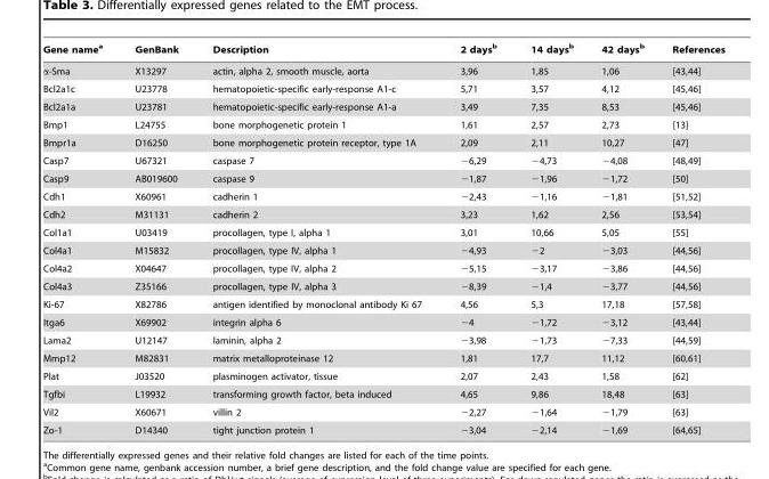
<table><thead><tr><td>Gene name<sup>a</sup></td><td>GenBank</td><td>Description</td><td>2 days<sup>b</sup></td><td>14 days<sup>b</sup></td><td>42 days<sup>b</sup></td><td>References</td></tr></thead><tbody><tr><td>α-Sma</td><td>X13297</td><td>actin, alpha 2, smooth muscle, aorta</td><td>3,96</td><td>1,85</td><td>1,06</td><td>[43,44]</td></tr><tr><td>Bcl2a1c</td><td>U23778</td><td>hematopoietic-specific early-response A1-c</td><td>5,71</td><td>3,57</td><td>4,12</td><td>[45,46]</td></tr><tr><td>Bcl2a1a</td><td>U23781</td><td>hematopoietic-specific early-response A1-a</td><td>3,49</td><td>7,35</td><td>8,53</td><td>[45,46]</td></tr><tr><td>Bmp1</td><td>L24755</td><td>bone morphogenetic protein 1</td><td>1,61</td><td>2,57</td><td>2,73</td><td>[13]</td></tr><tr><td>Bmpr1a</td><td>D16250</td><td>bone morphogenetic protein receptor, type 1A</td><td>2,09</td><td>2,11</td><td>10,27</td><td>[47]</td></tr><tr><td>Casp7</td><td>U67321</td><td>caspase 7</td><td>−6,29</td><td>−4,73</td><td>−4,08</td><td>[48,49]</td></tr><tr><td>Casp9</td><td>AB019600</td><td>caspase 9</td><td>−1,87</td><td>−1,96</td><td>−1,72</td><td>[50]</td></tr><tr><td>Cdh1</td><td>X60961</td><td>cadherin 1</td><td>−2,43</td><td>−1,16</td><td>−1,81</td><td>[51,52]</td></tr><tr><td>Cdh2</td><td>M31131</td><td>cadherin 2</td><td>3,23</td><td>1,62</td><td>2,56</td><td>[53,54]</td></tr><tr><td>Col1a1</td><td>U03419</td><td>procollagen, type I, alpha 1</td><td>3,01</td><td>10,66</td><td>5,05</td><td>[55]</td></tr><tr><td>Col4a1</td><td>M15832</td><td>procollagen, type IV, alpha 1</td><td>−4,93</td><td>−2</td><td>−3,03</td><td>[44,56]</td></tr><tr><td>Col4a2</td><td>X04647</td><td>procollagen, type IV, alpha 2</td><td>−5,15</td><td>−3,17</td><td>−3,86</td><td>[44,56]</td></tr><tr><td>Col4a3</td><td>Z35166</td><td>procollagen, type IV, alpha 3</td><td>−8,39</td><td>−1,4</td><td>−3,77</td><td>[44,56]</td></tr><tr><td>Ki-67</td><td>X82786</td><td>antigen identified by monoclonal antibody Ki 67</td><td>4,56</td><td>5,3</td><td>17,18</td><td>[57,58]</td></tr><tr><td>Itga6</td><td>X69902</td><td>integrin alpha 6</td><td>−4</td><td>−1,72</td><td>−3,12</td><td>[43,44]</td></tr><tr><td>Lama2</td><td>U12147</td><td>laminin, alpha 2</td><td>−3,98</td><td>−1,73</td><td>−7,33</td><td>[44,59]</td></tr><tr><td>Mmp12</td><td>M82831</td><td>matrix metalloproteinase 12</td><td>1,81</td><td>17,7</td><td>11,12</td><td>[60,61]</td></tr><tr><td>Plat</td><td>J03520</td><td>plasminogen activator, tissue</td><td>2,07</td><td>2,43</td><td>1,58</td><td>[62]</td></tr><tr><td>Tgfbi</td><td>L19932</td><td>transforming growth factor, beta induced</td><td>4,65</td><td>9,86</td><td>18,48</td><td>[63]</td></tr><tr><td>Vil2</td><td>X60671</td><td>villin 2</td><td>−2,27</td><td>−1,64</td><td>−1,79</td><td>[63]</td></tr><tr><td>Zo-1</td><td>D14340</td><td>tight junction protein 1</td><td>−3,04</td><td>−2,14</td><td>−1,69</td><td>[64,65]</td></tr></tbody></table>